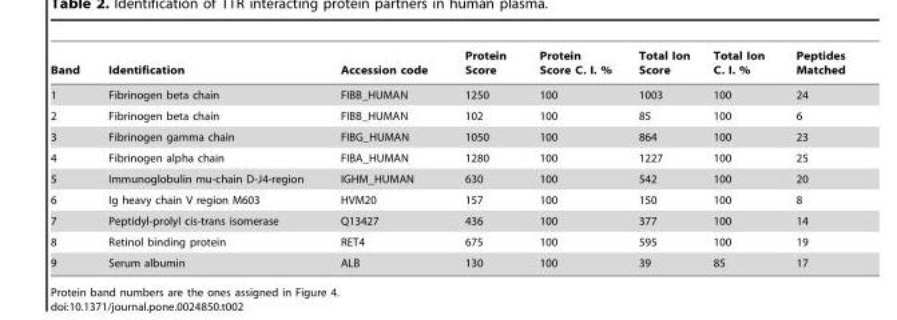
<table><thead><tr><td>Band</td><td>Identification</td><td>Accession code</td><td>Protein Score</td><td>Protein Score C. I. %</td><td>Total Ion Score</td><td>Total Ion C. I. %</td><td>Peptides Matched</td></tr></thead><tbody><tr><td>1</td><td>Fibrinogen beta chain</td><td>FIBB_HUMAN</td><td>1250</td><td>100</td><td>1003</td><td>100</td><td>24</td></tr><tr><td>2</td><td>Fibrinogen beta chain</td><td>FIBB_HUMAN</td><td>102</td><td>100</td><td>85</td><td>100</td><td>6</td></tr><tr><td>3</td><td>Fibrinogen gamma chain</td><td>FIBG_HUMAN</td><td>1050</td><td>100</td><td>864</td><td>100</td><td>23</td></tr><tr><td>4</td><td>Fibrinogen alpha chain</td><td>FIBA_HUMAN</td><td>1280</td><td>100</td><td>1227</td><td>100</td><td>25</td></tr><tr><td>5</td><td>Immunoglobulin mu-chain D-J4-region</td><td>IGHM_HUMAN</td><td>630</td><td>100</td><td>542</td><td>100</td><td>20</td></tr><tr><td>6</td><td>Ig heavy chain V region M603</td><td>HVM20</td><td>157</td><td>100</td><td>150</td><td>100</td><td>8</td></tr><tr><td>7</td><td>Peptidyl-prolyl cis-trans isomerase</td><td>Q13427</td><td>436</td><td>100</td><td>377</td><td>100</td><td>14</td></tr><tr><td>8</td><td>Retinol binding protein</td><td>RET4</td><td>675</td><td>100</td><td>595</td><td>100</td><td>19</td></tr><tr><td>9</td><td>Serum albumin</td><td>ALB</td><td>130</td><td>100</td><td>39</td><td>85</td><td>17</td></tr></tbody></table>